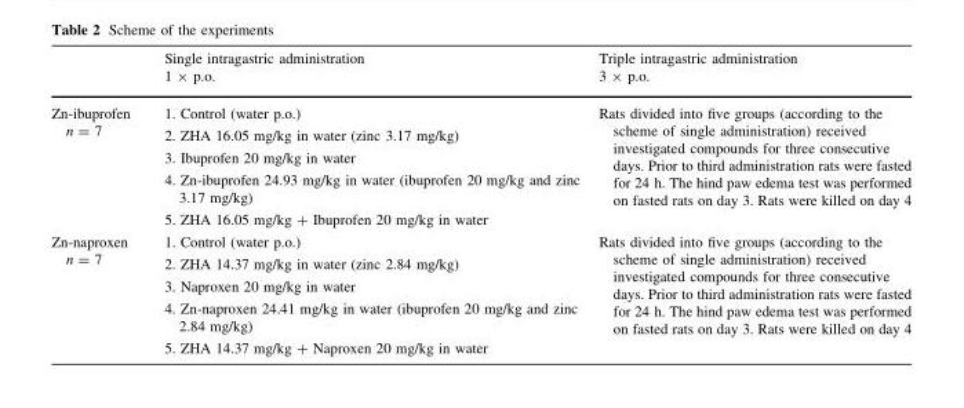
<table><thead><tr><td></td><td>Single intragastric administration 1 × p.o.</td><td>Triple intragastric administration 3 × p.o.</td></tr></thead><tbody><tr><td>Zn-ibuprofen n = 7</td><td>1. Control (water p.o.) 2. ZHA 16.05 mg/kg in water (zinc 3.17 mg/kg) 3. Ibuprofen 20 mg/kg in water 4. Zn-ibuprofen 24.93 mg/kg in water (ibuprofen 20 mg/kg and zinc 3.17 mg/kg) 5. ZHA 16.05 mg/kg + Ibuprofen 20 mg/kg in water</td><td>Rats divided into five groups (according to the scheme of single administration) received investigated compounds for three consecutive days. Prior to third administration rats were fasted for 24 h. The hind paw edema test was performed on fasted rats on day 3. Rats were killed on day 4</td></tr><tr><td>Zn-naproxen n = 7</td><td>1. Control (water p.o.) 2. ZHA 14.37 mg/kg in water (zinc 2.84 mg/kg) 3. Naproxen 20 mg/kg in water 4. Zn-naproxen 24.41 mg/kg in water (ibuprofen 20 mg/kg and zinc 2.84 mg/kg) 5. ZHA 14.37 mg/kg + Naproxen 20 mg/kg in water</td><td>Rats divided into five groups (according to the scheme of single administration) received investigated compounds for three consecutive days. Prior to third administration rats were fasted for 24 h. The hind paw edema test was performed on fasted rats on day 3. Rats were killed on day 4</td></tr></tbody></table>